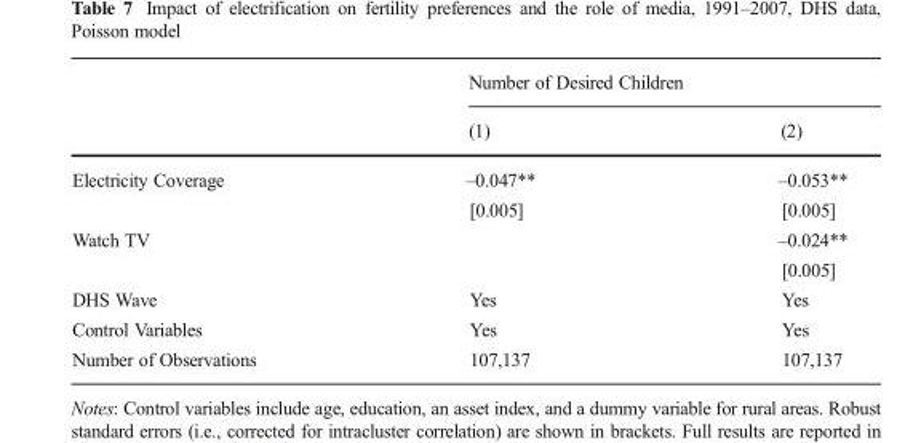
<table><thead><tr><td rowspan="2"></td><td colspan="2">Number of Desired Children</td></tr><tr><td>(1)</td><td>(2)</td></tr></thead><tbody><tr><td rowspan="2">Electricity Coverage</td><td>–0.047**</td><td>–0.053**</td></tr><tr><td>[0.005]</td><td>[0.005]</td></tr><tr><td rowspan="2">Watch TV</td><td></td><td>–0.024**</td></tr><tr><td></td><td>[0.005]</td></tr><tr><td>DHS Wave</td><td>Yes</td><td>Yes</td></tr><tr><td>Control Variables</td><td>Yes</td><td>Yes</td></tr><tr><td>Number of Observations</td><td>107,137</td><td>107,137</td></tr></tbody></table>